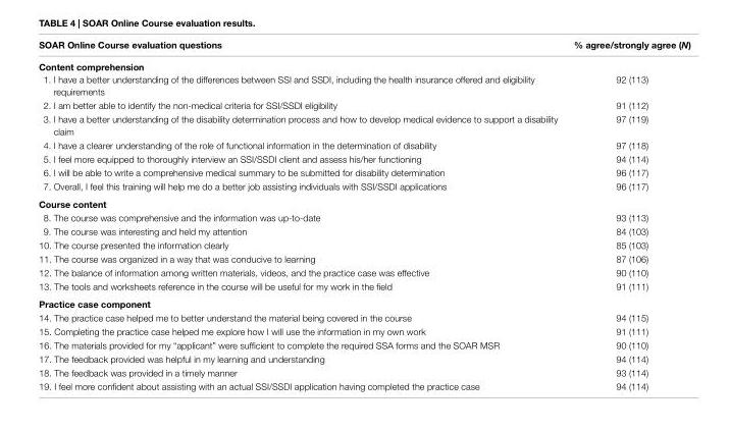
<table><thead><tr><td>SoaR online Course evaluation questions</td><td>% agree/strongly agree (N)</td></tr></thead><tbody><tr><td colspan="2">Content comprehension</td></tr><tr><td>1. I have a better understanding of the differences between SSI and SSDI, including the health insurance offered and eligibility requirements</td><td>92 (113)</td></tr><tr><td>2. I am better able to identify the non-medical criteria for SSI/SSDI eligibility</td><td>91 (112)</td></tr><tr><td>3. I have a better understanding of the disability determination process and how to develop medical evidence to support a disability claim</td><td>97 (119)</td></tr><tr><td>4. I have a clearer understanding of the role of functional information in the determination of disability</td><td>97 (118)</td></tr><tr><td>5. I feel more equipped to thoroughly interview an SSI/SSDI client and assess his/her functioning</td><td>94 (114)</td></tr><tr><td>6. I will be able to write a comprehensive medical summary to be submitted for disability determination</td><td>96 (117)</td></tr><tr><td>7. Overall, I feel this training will help me do a better job assisting individuals with SSI/SSDI applications</td><td>96 (117)</td></tr><tr><td colspan="2">Course content</td></tr><tr><td>8. The course was comprehensive and the information was up-to-date</td><td>93 (113)</td></tr><tr><td>9. The course was interesting and held my attention</td><td>84 (103)</td></tr><tr><td>10. The course presented the information clearly</td><td>85 (103)</td></tr><tr><td>11. The course was organized in a way that was conducive to learning</td><td>87 (106)</td></tr><tr><td>12. The balance of information among written materials, videos, and the practice case was effective</td><td>90 (110)</td></tr><tr><td>13. The tools and worksheets reference in the course will be useful for my work in the field</td><td>91 (111)</td></tr><tr><td colspan="2">Practice case component</td></tr><tr><td>14. The practice case helped me to better understand the material being covered in the course</td><td>94 (115)</td></tr><tr><td>15. Completing the practice case helped me explore how I will use the information in my own work</td><td>91 (111)</td></tr><tr><td>16. The materials provided for my “applicant” were sufficient to complete the required SSA forms and the SOAR MSR</td><td>90 (110)</td></tr><tr><td>17. The feedback provided was helpful in my learning and understanding</td><td>94 (114)</td></tr><tr><td>18. The feedback was provided in a timely manner</td><td>93 (114)</td></tr><tr><td>19. I feel more confident about assisting with an actual SSI/SSDI application having completed the practice case</td><td>94 (114)</td></tr></tbody></table>